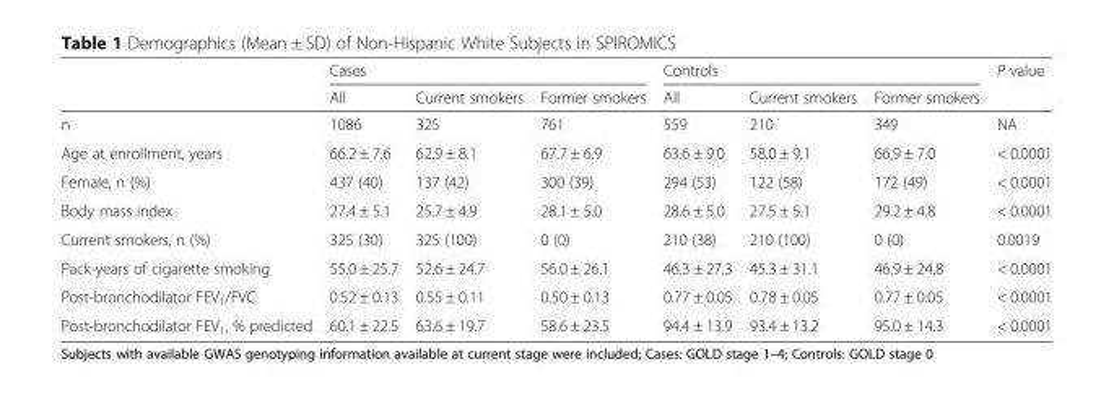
<table><thead><tr><td rowspan="2"></td><td colspan="3">Cases</td><td colspan="3">Controls</td><td rowspan="2">P value</td></tr><tr><td>All</td><td>Current smokers</td><td>Former smokers</td><td>All</td><td>Current smokers</td><td>Former smokers</td></tr></thead><tbody><tr><td>n</td><td>1086</td><td>325</td><td>761</td><td>559</td><td>210</td><td>349</td><td>NA</td></tr><tr><td>Age at enrollment, years</td><td>66.2 ± 7.6</td><td>62.9 ± 8.1</td><td>67.7 ± 6.9</td><td>63.6 ± 9.0</td><td>58.0 ± 9.1</td><td>66.9 ± 7.0</td><td>&lt; 0.0001</td></tr><tr><td>Female, n (%)</td><td>437 (40)</td><td>137 (42)</td><td>300 (39)</td><td>294 (53)</td><td>122 (58)</td><td>172 (49)</td><td>&lt; 0.0001</td></tr><tr><td>Body mass index</td><td>27.4 ± 5.1</td><td>25.7 ± 4.9</td><td>28.1 ± 5.0</td><td>28.6 ± 5.0</td><td>27.5 ± 5.1</td><td>29.2 ± 4.8</td><td>&lt; 0.0001</td></tr><tr><td>Current smokers, n (%)</td><td>325 (30)</td><td>325 (100)</td><td>0 (0)</td><td>210 (38)</td><td>210 (100)</td><td>0 (0)</td><td>0.0019</td></tr><tr><td>Pack-years of cigarette smoking</td><td>55.0 ± 25.7</td><td>52.6 ± 24.7</td><td>56.0 ± 26.1</td><td>46.3 ± 27.3</td><td>45.3 ± 31.1</td><td>46.9 ± 24.8</td><td>&lt; 0.0001</td></tr><tr><td>Post-bronchodilator FEV<sub>1</sub>/FVC</td><td>0.52 ± 0.13</td><td>0.55 ± 0.11</td><td>0.50 ± 0.13</td><td>0.77 ± 0.05</td><td>0.78 ± 0.05</td><td>0.77 ± 0.05</td><td>&lt; 0.0001</td></tr><tr><td>Post-bronchodilator FEV<sub>1</sub>, % predicted</td><td>60.1 ± 22.5</td><td>63.6 ± 19.7</td><td>58.6 ± 23.5</td><td>94.4 ± 13.9</td><td>93.4 ± 13.2</td><td>95.0 ± 14.3</td><td>&lt; 0.0001</td></tr></tbody></table>